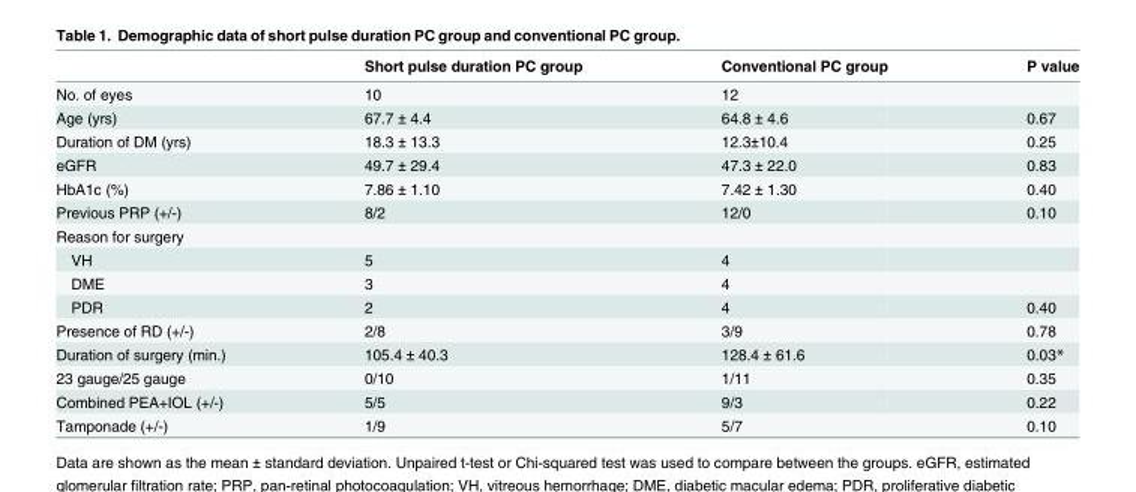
<table><thead><tr><td></td><td>Short pulse duration PC group</td><td>Conventional PC group</td><td>P value</td></tr></thead><tbody><tr><td>No. of eyes</td><td>10</td><td>12</td><td></td></tr><tr><td>Age (yrs)</td><td>67.7 ± 4.4</td><td>64.8 ± 4.6</td><td>0.67</td></tr><tr><td>Duration of DM (yrs)</td><td>18.3 ± 13.3</td><td>12.3±10.4</td><td>0.25</td></tr><tr><td>eGFR</td><td>49.7 ± 29.4</td><td>47.3 ± 22.0</td><td>0.83</td></tr><tr><td>HbA1c (%)</td><td>7.86 ± 1.10</td><td>7.42 ± 1.30</td><td>0.40</td></tr><tr><td>Previous PRP (+/-)</td><td>8/2</td><td>12/0</td><td>0.10</td></tr><tr><td colspan="4">Reason for surgery</td></tr><tr><td>VH</td><td>5</td><td>4</td><td></td></tr><tr><td>DME</td><td>3</td><td>4</td><td></td></tr><tr><td>PDR</td><td>2</td><td>4</td><td>0.40</td></tr><tr><td>Presence of RD (+/-)</td><td>2/8</td><td>3/9</td><td>0.78</td></tr><tr><td>Duration of surgery (min.)</td><td>105.4 ± 40.3</td><td>128.4 ± 61.6</td><td>0.03*</td></tr><tr><td>23 gauge/25 gauge</td><td>0/10</td><td>1/11</td><td>0.35</td></tr><tr><td>Combined PEA+IOL (+/-)</td><td>5/5</td><td>9/3</td><td>0.22</td></tr><tr><td>Tamponade (+/-)</td><td>1/9</td><td>5/7</td><td>0.10</td></tr></tbody></table>